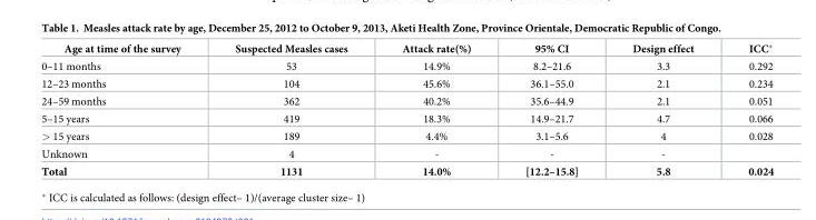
<table><thead><tr><td>Age at time of the survey</td><td>Suspected Measles cases</td><td>Attack rate(%)</td><td>95% CI</td><td>Design effect</td><td>ICC*</td></tr></thead><tbody><tr><td>0–11 months</td><td>53</td><td>14.9%</td><td>8.2–21.6</td><td>3.3</td><td>0.292</td></tr><tr><td>12–23 months</td><td>104</td><td>45.6%</td><td>36.1–55.0</td><td>2.1</td><td>0.234</td></tr><tr><td>24–59 months</td><td>362</td><td>40.2%</td><td>35.6–44.9</td><td>2.1</td><td>0.051</td></tr><tr><td>5–15 years</td><td>419</td><td>18.3%</td><td>14.9–21.7</td><td>4.7</td><td>0.066</td></tr><tr><td>&gt; 15 years</td><td>189</td><td>4.4%</td><td>3.1–5.6</td><td>4</td><td>0.028</td></tr><tr><td>Unknown</td><td>4</td><td>-</td><td>-</td><td>-</td><td></td></tr><tr><td>Total</td><td>1131</td><td>14.0%</td><td>[12.2–15.8]</td><td>5.8</td><td>0.024</td></tr></tbody></table>